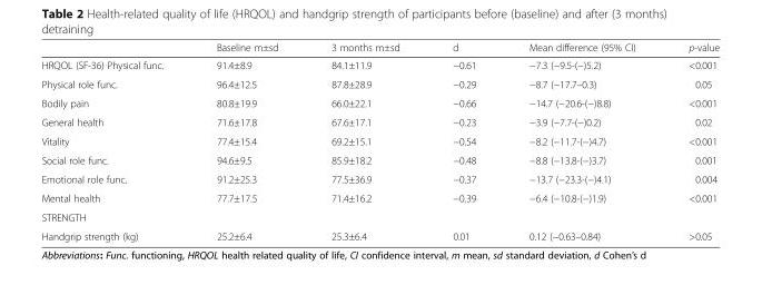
<table><thead><tr><td></td><td>Baseline m±sd</td><td>3 months m±sd</td><td>d</td><td>Mean difference (95% CI)</td><td>p-value</td></tr></thead><tbody><tr><td>HRQOL (SF-36) Physical func.</td><td>91.4±8.9</td><td>84.1±11.9</td><td>−0.61</td><td>−7.3 (−9.5-(−)5.2)</td><td>&lt;0.001</td></tr><tr><td>Physical role func.</td><td>96.4±12.5</td><td>87.8±28.9</td><td>−0.29</td><td>−8.7 (−17.7–0.3)</td><td>0.05</td></tr><tr><td>Bodily pain</td><td>80.8±19.9</td><td>66.0±22.1</td><td>−0.66</td><td>−14.7 (−20.6-(−)8.8)</td><td>&lt;0.001</td></tr><tr><td>General health</td><td>71.6±17.8</td><td>67.6±17.1</td><td>−0.23</td><td>−3.9 (−7.7-(−)0.2)</td><td>0.02</td></tr><tr><td>Vitality</td><td>77.4±15.4</td><td>69.2±15.1</td><td>−0.54</td><td>−8.2 (−11.7-(−)4.7)</td><td>&lt;0.001</td></tr><tr><td>Social role func.</td><td>94.6±9.5</td><td>85.9±18.2</td><td>−0.48</td><td>−8.8 (−13.8-(−)3.7)</td><td>0.001</td></tr><tr><td>Emotional role func.</td><td>91.2±25.3</td><td>77.5±36.9</td><td>−0.37</td><td>−13.7 (−23.3-(−)4.1)</td><td>0.004</td></tr><tr><td>Mental health</td><td>77.7±17.5</td><td>71.4±16.2</td><td>−0.39</td><td>−6.4 (−10.8-(−)1.9)</td><td>&lt;0.001</td></tr><tr><td colspan="6">STRENGTH</td></tr><tr><td>Handgrip strength (kg)</td><td>25.2±6.4</td><td>25.3±6.4</td><td>0.01</td><td>0.12 (−0.63–0.84)</td><td>&gt;0.05</td></tr></tbody></table>